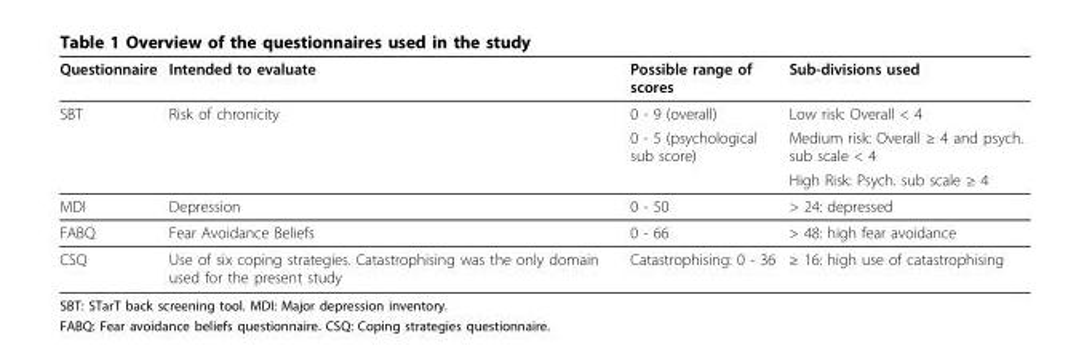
<table><thead><tr><td>Questionnaire</td><td>Intended to evaluate</td><td>Possible range of scores</td><td>Sub-divisions used</td></tr></thead><tbody><tr><td rowspan="3">SBT</td><td>Risk of chronicity</td><td>0 - 9 (overall)</td><td>Low risk: Overall &lt; 4</td></tr><tr><td></td><td>0 - 5 (psychological sub score)</td><td>Medium risk: Overall ≥ 4 and psych. sub scale &lt; 4</td></tr><tr><td></td><td></td><td>High Risk: Psych. sub scale ≥ 4</td></tr><tr><td>MDI</td><td>Depression</td><td>0 - 50</td><td>&gt; 24: depressed</td></tr><tr><td>FABQ</td><td>Fear Avoidance Beliefs</td><td>0 - 66</td><td>&gt; 48: high fear avoidance</td></tr><tr><td>CSQ</td><td>Use of six coping strategies. Catastrophising was the only domain used for the present study</td><td>Catastrophising: 0 - 36</td><td>≥ 16: high use of catastrophising</td></tr></tbody></table>